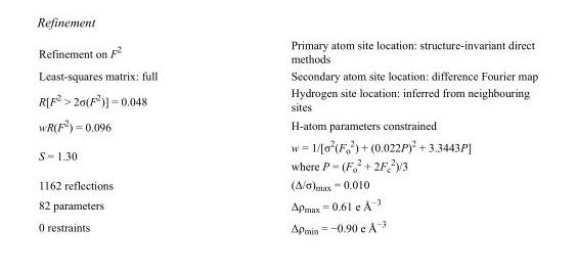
<table><tbody><tr><td>Refinement on F<sup>2</sup></td><td>Primary atom site location: structure-invariant direct methods</td></tr><tr><td>Least-squares matrix: full</td><td>Secondary atom site location: difference Fourier map</td></tr><tr><td>R[F<sup>2</sup> &gt; 2σ(F<sup>2</sup>)] = 0.048</td><td>Hydrogen site location: inferred from neighbouring sites</td></tr><tr><td>wR(F<sup>2</sup>) = 0.096</td><td>H-atom parameters constrained</td></tr><tr><td>S = 1.30</td><td>w = 1/[σ<sup>2</sup>(F<sub>o</sub> <sup>2</sup>) + (0.022P)<sup>2</sup> + 3.3443P] where P = (F<sub>o</sub> <sup>2</sup> + 2F<sub>c</sub> <sup>2</sup>)/3</td></tr><tr><td>1162 reflections</td><td>(Δ/σ)<sub>max</sub> = 0.010</td></tr><tr><td>82 parameters</td><td>Δρ<sub>max</sub> = 0.61 e Å<sup>−3</sup></td></tr><tr><td>0 restraints</td><td>Δρmin = −0.90 e Å−3</td></tr></tbody></table>